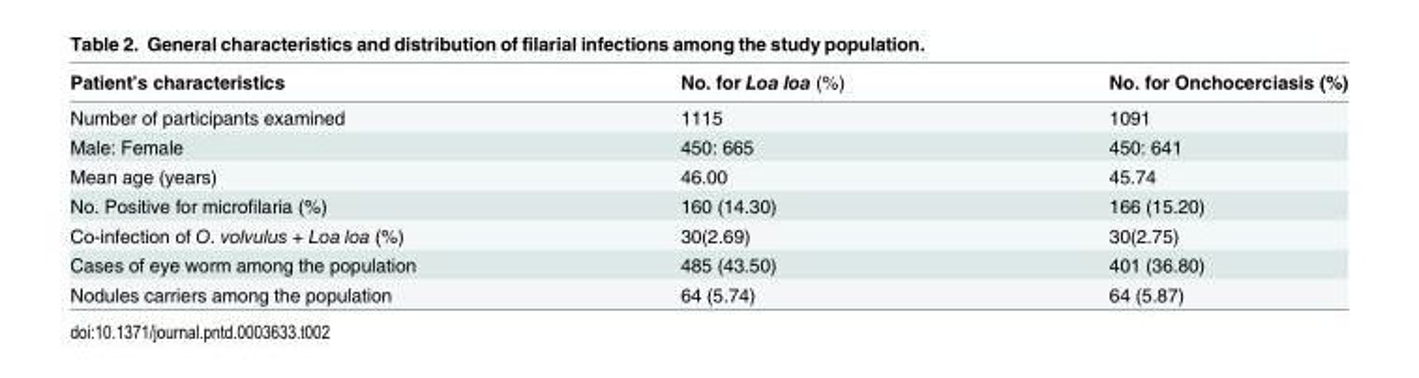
<table><thead><tr><td>Patient’s characteristics</td><td>No. for Loa loa (%)</td><td>No. for Onchocerciasis (%)</td></tr></thead><tbody><tr><td>Number of participants examined</td><td>1115</td><td>1091</td></tr><tr><td>Male: Female</td><td>450: 665</td><td>450: 641</td></tr><tr><td>Mean age (years)</td><td>46.00</td><td>45.74</td></tr><tr><td>No. Positive for microfilaria (%)</td><td>160 (14.30)</td><td>166 (15.20)</td></tr><tr><td>Co-infection of O. volvulus + Loa loa (%)</td><td>30(2.69)</td><td>30(2.75)</td></tr><tr><td>Cases of eye worm among the population</td><td>485 (43.50)</td><td>401 (36.80)</td></tr><tr><td>Nodules carriers among the population</td><td>64 (5.74)</td><td>64 (5.87)</td></tr></tbody></table>